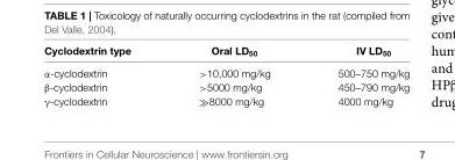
<table><thead><tr><td>Cyclodextrin type</td><td>Oral LD<sub>50</sub></td><td>IV LD<sub>50</sub></td></tr></thead><tbody><tr><td>α-cyclodextrin</td><td>&gt;10,000 mg/kg</td><td>500–750 mg/kg</td></tr><tr><td>β-cyclodextrin</td><td>&gt;5000 mg/kg</td><td>450–790 mg/kg</td></tr><tr><td>γ-cyclodextrin</td><td>≫8000 mg/kg</td><td>4000 mg/kg</td></tr></tbody></table>